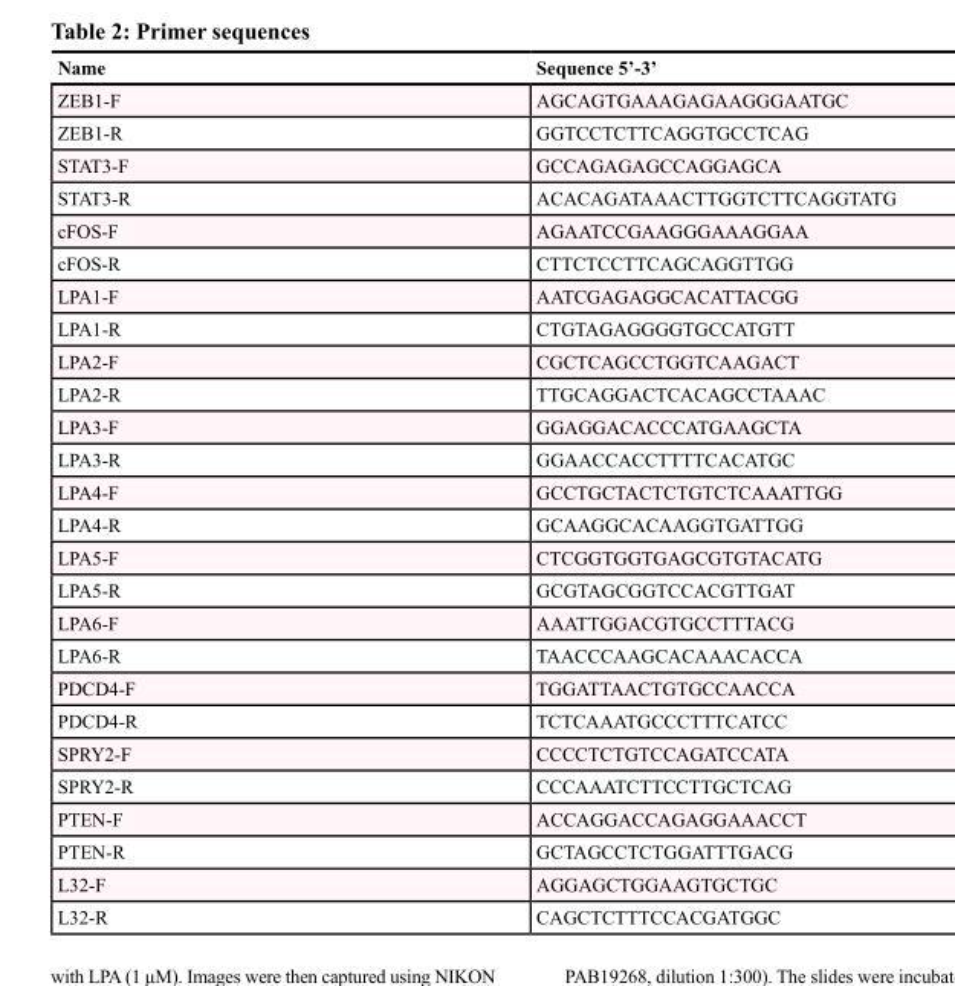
<table><thead><tr><td>Name</td><td>Sequence 5’-3’</td></tr></thead><tbody><tr><td>ZEB1-F</td><td>AGCAGTGAAAGAGAAGGGAATGC</td></tr><tr><td>ZEB1-R</td><td>GGTCCTCTTCAGGTGCCTCAG</td></tr><tr><td>STAT3-F</td><td>GCCAGAGAGCCAGGAGCA</td></tr><tr><td>STAT3-R</td><td>ACACAGATAAACTTGGTCTTCAGGTATG</td></tr><tr><td>cFOS-F</td><td>AGAATCCGAAGGGAAAGGAA</td></tr><tr><td>cFOS-R</td><td>CTTCTCCTTCAGCAGGTTGG</td></tr><tr><td>LPA1-F</td><td>AATCGAGAGGCACATTACGG</td></tr><tr><td>LPA1-R</td><td>CTGTAGAGGGGTGCCATGTT</td></tr><tr><td>LPA2-F</td><td>CGCTCAGCCTGGTCAAGACT</td></tr><tr><td>LPA2-R</td><td>TTGCAGGACTCACAGCCTAAAC</td></tr><tr><td>LPA3-F</td><td>GGAGGACACCCATGAAGCTA</td></tr><tr><td>LPA3-R</td><td>GGAACCACCTTTTCACATGC</td></tr><tr><td>LPA4-F</td><td>GCCTGCTACTCTGTCTCAAATTGG</td></tr><tr><td>LPA4-R</td><td>GCAAGGCACAAGGTGATTGG</td></tr><tr><td>LPA5-F</td><td>CTCGGTGGTGAGCGTGTACATG</td></tr><tr><td>LPA5-R</td><td>GCGTAGCGGTCCACGTTGAT</td></tr><tr><td>LPA6-F</td><td>AAATTGGACGTGCCTTTACG</td></tr><tr><td>LPA6-R</td><td>TAACCCAAGCACAAACACCA</td></tr><tr><td>PDCD4-F</td><td>TGGATTAACTGTGCCAACCA</td></tr><tr><td>PDCD4-R</td><td>TCTCAAATGCCCTTTCATCC</td></tr><tr><td>SPRY2-F</td><td>CCCCTCTGTCCAGATCCATA</td></tr><tr><td>SPRY2-R</td><td>CCCAAATCTTCCTTGCTCAG</td></tr><tr><td>PTEN-F</td><td>ACCAGGACCAGAGGAAACCT</td></tr><tr><td>PTEN-R</td><td>GCTAGCCTCTGGATTTGACG</td></tr><tr><td>L32-F</td><td>AGGAGCTGGAAGTGCTGC</td></tr><tr><td>L32-R</td><td>CAGCTCTTTCCACGATGGC</td></tr></tbody></table>